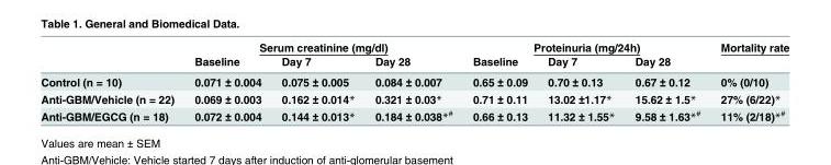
<table><thead><tr><td rowspan="2"></td><td colspan="3">Serum creatinine (mg/dl)</td><td colspan="3">Proteinuria (mg/24h)</td><td rowspan="2">Mortality rate</td></tr><tr><td>Baseline</td><td>Day 7</td><td>Day 28</td><td>Baseline</td><td>Day 7</td><td>Day 28</td></tr></thead><tbody><tr><td>Control (n = 10)</td><td>0.071 ± 0.004</td><td>0.075 ± 0.005</td><td>0.084 ± 0.007</td><td>0.65 ± 0.09</td><td>0.70 ± 0.13</td><td>0.67 ± 0.12</td><td>0% (0/10)</td></tr><tr><td>Anti-GBM/Vehicle (n = 22)</td><td>0.069 ± 0.003</td><td>0.162 ± 0.014*</td><td>0.321 ± 0.03*</td><td>0.71 ± 0.11</td><td>13.02 ±1.17*</td><td>15.62 ± 1.5*</td><td>27% (6/22)*</td></tr><tr><td>Anti-GBM/EGCG (n = 18)</td><td>0.072 ± 0.004</td><td>0.144 ± 0.013*</td><td>0.184 ± 0.038*<sup>#</sup></td><td>0.66 ± 0.13</td><td>11.32 ± 1.55*</td><td>9.58 ± 1.63*<sup>#</sup></td><td>11% (2/18)*<sup>#</sup></td></tr></tbody></table>